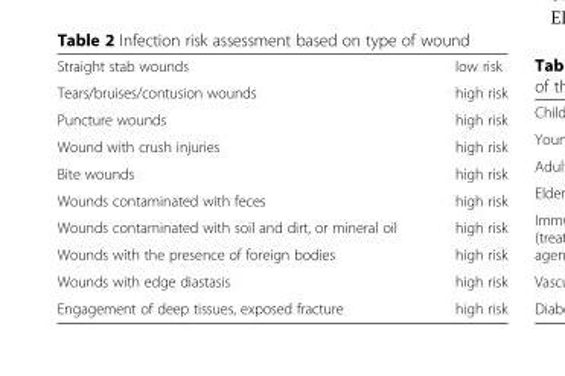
<table><tbody><tr><td>Straight stab wounds</td><td>low risk</td></tr><tr><td>Tears/bruises/contusion wounds</td><td>high risk</td></tr><tr><td>Puncture wounds</td><td>high risk</td></tr><tr><td>Wound with crush injuries</td><td>high risk</td></tr><tr><td>Bite wounds</td><td>high risk</td></tr><tr><td>Wounds contaminated with feces</td><td>high risk</td></tr><tr><td>Wounds contaminated with soil and dirt, or mineral oil</td><td>high risk</td></tr><tr><td>Wounds with the presence of foreign bodies</td><td>high risk</td></tr><tr><td>Wounds with edge diastasis</td><td>high risk</td></tr><tr><td>Engagement of deep tissues, exposed fracture</td><td>high risk</td></tr></tbody></table>